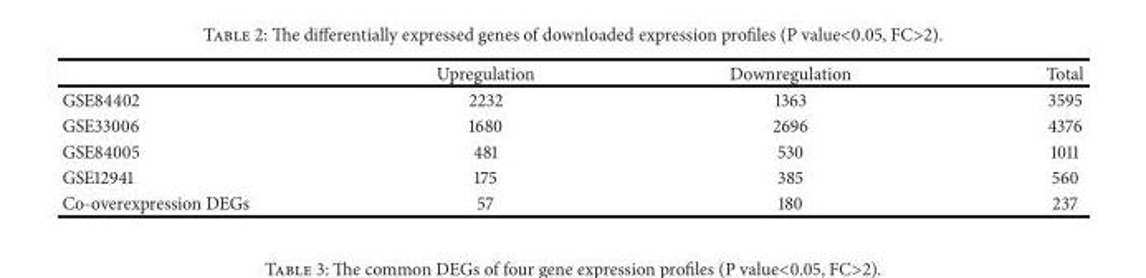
<table><thead><tr><td></td><td>Upregulation</td><td>Downregulation</td><td>Total</td></tr></thead><tbody><tr><td>GSE84402</td><td>2232</td><td>1363</td><td>3595</td></tr><tr><td>GSE33006</td><td>1680</td><td>2696</td><td>4376</td></tr><tr><td>GSE84005</td><td>481</td><td>530</td><td>1011</td></tr><tr><td>GSE12941</td><td>175</td><td>385</td><td>560</td></tr><tr><td>Co-overexpression DEGs</td><td>57</td><td>180</td><td>237</td></tr></tbody></table>